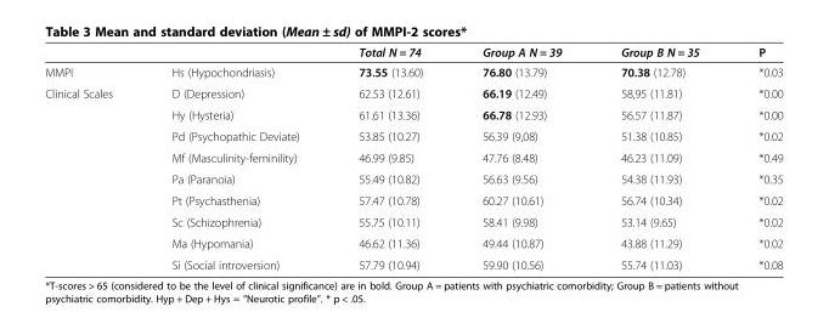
<table><thead><tr><td></td><td></td><td>Total N = 74</td><td>Group A N = 39</td><td>Group B N = 35</td><td>P</td></tr></thead><tbody><tr><td>MMPI</td><td>Hs (Hypochondriasis)</td><td>73.55 (13.60)</td><td>76.80 (13.79)</td><td>70.38 (12.78)</td><td>*0.03</td></tr><tr><td rowspan="9">Clinical Scales</td><td>D (Depression)</td><td>62.53 (12.61)</td><td>66.19 (12.49)</td><td>58,95 (11.81)</td><td>*0.00</td></tr><tr><td>Hy (Hysteria)</td><td>61.61 (13.36)</td><td>66.78 (12.93)</td><td>56.57 (11.87)</td><td>*0.00</td></tr><tr><td>Pd (Psychopathic Deviate)</td><td>53.85 (10.27)</td><td>56.39 (9,08)</td><td>51.38 (10.85)</td><td>*0.02</td></tr><tr><td>Mf (Masculinity-feminility)</td><td>46.99 (9.85)</td><td>47.76 (8.48)</td><td>46.23 (11.09)</td><td>*0.49</td></tr><tr><td>Pa (Paranoia)</td><td>55.49 (10.82)</td><td>56.63 (9.56)</td><td>54.38 (11.93)</td><td>*0.35</td></tr><tr><td>Pt (Psychasthenia)</td><td>57.47 (10.78)</td><td>60.27 (10.61)</td><td>56.74 (10.34)</td><td>*0.02</td></tr><tr><td>Sc (Schizophrenia)</td><td>55.75 (10.11)</td><td>58.41 (9.98)</td><td>53.14 (9.65)</td><td>*0.02</td></tr><tr><td>Ma (Hypomania)</td><td>46.62 (11.36)</td><td>49.44 (10.87)</td><td>43.88 (11.29)</td><td>*0.02</td></tr><tr><td>Si (Social introversion)</td><td>57.79 (10.94)</td><td>59.90 (10.56)</td><td>55.74 (11.03)</td><td>*0.08</td></tr></tbody></table>